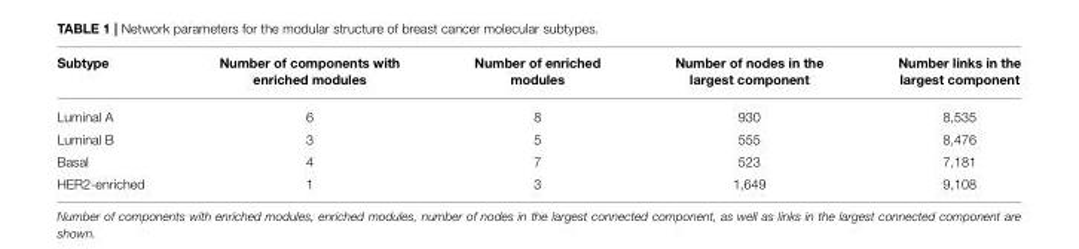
<table><thead><tr><td>Subtype</td><td>Number of components with enriched modules</td><td>Number of enriched modules</td><td>Number of nodes in the largest component</td><td>Number links in the largest component</td></tr></thead><tbody><tr><td>Luminal A</td><td>6</td><td>8</td><td>930</td><td>8,535</td></tr><tr><td>Luminal B</td><td>3</td><td>5</td><td>555</td><td>8,476</td></tr><tr><td>Basal</td><td>4</td><td>7</td><td>523</td><td>7,181</td></tr><tr><td>HER2-enriched</td><td>1</td><td>3</td><td>1,649</td><td>9,108</td></tr></tbody></table>